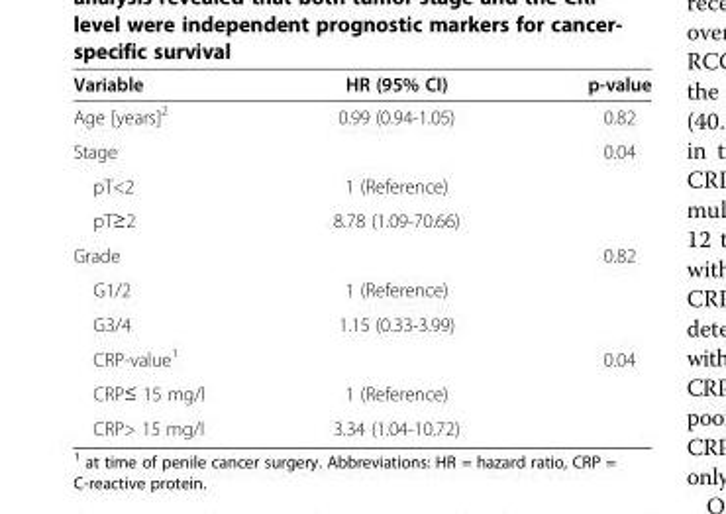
<table><thead><tr><td>Variable</td><td>HR (95% CI)</td><td>p-value</td></tr></thead><tbody><tr><td>Age [years]<sup>2</sup></td><td>0.99 (0.94-1.05)</td><td>0.82</td></tr><tr><td>Stage</td><td></td><td>0.04</td></tr><tr><td>pT&lt;2</td><td>1 (Reference)</td><td></td></tr><tr><td>pT≥2</td><td>8.78 (1.09-70.66)</td><td></td></tr><tr><td>Grade</td><td></td><td>0.82</td></tr><tr><td>G1/2</td><td>1 (Reference)</td><td></td></tr><tr><td>G3/4</td><td>1.15 (0.33-3.99)</td><td></td></tr><tr><td>CRP-value<sup>1</sup></td><td></td><td>0.04</td></tr><tr><td>CRP≤ 15 mg/l</td><td>1 (Reference)</td><td></td></tr><tr><td>CRP&gt; 15 mg/l</td><td>3.34 (1.04-10.72)</td><td></td></tr></tbody></table>